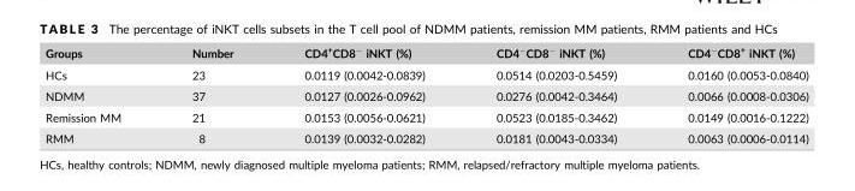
<table><thead><tr><td>Groups</td><td>Number</td><td>CD4<sup>+</sup>CD8<sup>−</sup> iNKT (%)</td><td>CD4<sup>−</sup>CD8<sup>−</sup> iNKT (%)</td><td>CD4<sup>−</sup>CD8<sup>+</sup> iNKT (%)</td></tr></thead><tbody><tr><td>HCs</td><td>23</td><td>0.0119 (0.0042-0.0839)</td><td>0.0514 (0.0203-0.5459)</td><td>0.0160 (0.0053-0.0840)</td></tr><tr><td>NDMM</td><td>37</td><td>0.0127 (0.0026-0.0962)</td><td>0.0276 (0.0042-0.3464)</td><td>0.0066 (0.0008-0.0306)</td></tr><tr><td>Remission MM</td><td>21</td><td>0.0153 (0.0056-0.0621)</td><td>0.0523 (0.0185-0.3462)</td><td>0.0149 (0.0016-0.1222)</td></tr><tr><td>RMM</td><td>8</td><td>0.0139 (0.0032-0.0282)</td><td>0.0181 (0.0043-0.0334)</td><td>0.0063 (0.0006-0.0114)</td></tr></tbody></table>